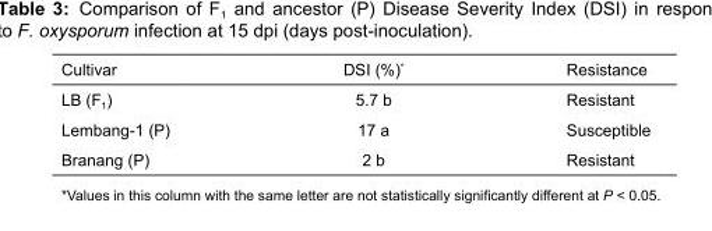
<table><thead><tr><td>Cultivar</td><td>DSI (%)*</td><td>Resistance</td></tr></thead><tbody><tr><td>LB (F<sub>1</sub>)</td><td>5.7 b</td><td>Resistant</td></tr><tr><td>Lembang-1 (P)</td><td>17 a</td><td>Susceptible</td></tr><tr><td>Branang (P)</td><td>2 b</td><td>Resistant</td></tr></tbody></table>